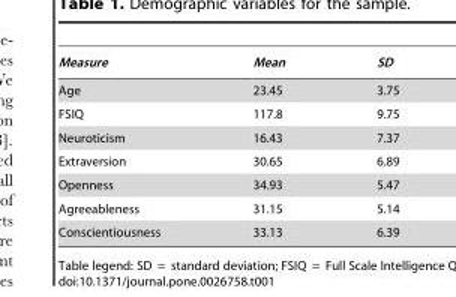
<table><thead><tr><td>Measure</td><td>Mean</td><td>SD</td></tr></thead><tbody><tr><td>Age</td><td>23.45</td><td>3.75</td></tr><tr><td>FSIQ</td><td>117.8</td><td>9.75</td></tr><tr><td>Neuroticism</td><td>16.43</td><td>7.37</td></tr><tr><td>Extraversion</td><td>30.65</td><td>6.89</td></tr><tr><td>Openness</td><td>34.93</td><td>5.47</td></tr><tr><td>Agreeableness</td><td>31.15</td><td>5.14</td></tr><tr><td>Conscientiousness</td><td>33.13</td><td>6.39</td></tr></tbody></table>